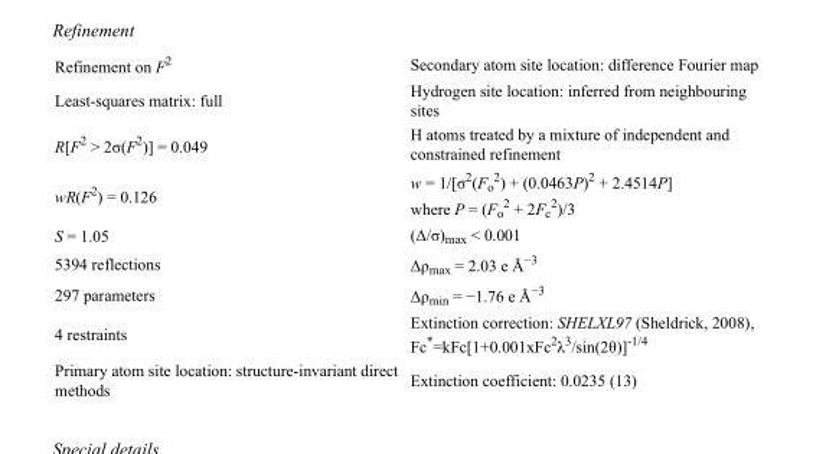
<table><tbody><tr><td>Refinement on F<sup>2</sup></td><td>Secondary atom site location: difference Fourier map</td></tr><tr><td>Least-squares matrix: full</td><td>Hydrogen site location: inferred from neighbouring sites</td></tr><tr><td>R[F<sup>2</sup> &gt; 2σ(F<sup>2</sup>)] = 0.049</td><td>H atoms treated by a mixture of independent and constrained refinement</td></tr><tr><td>wR(F<sup>2</sup>) = 0.126</td><td>w = 1/[σ<sup>2</sup>(F<sub>o</sub> <sup>2</sup>) + (0.0463P)<sup>2</sup> + 2.4514P] where P = (F<sub>o</sub> <sup>2</sup> + 2F<sub>c</sub> <sup>2</sup>)/3</td></tr><tr><td>S = 1.05</td><td>(Δ/σ)<sub>max</sub> &lt; 0.001</td></tr><tr><td>5394 reflections</td><td>Δρ<sub>max</sub> = 2.03 e Å<sup>−3</sup></td></tr><tr><td>297 parameters</td><td>Δρ<sub>min</sub> = −1.76 e Å<sup>−3</sup></td></tr><tr><td>4 restraints</td><td>Extinction correction: SHELXL97 (Sheldrick, 2008), Fc*=kFc[1+0.001xFc<sup>2</sup>λ<sup>3</sup>/sin(2θ)]<sup>-1/4</sup></td></tr><tr><td>Primary atom site location: structure-invariant direct methods</td><td>Extinction coefficient: 0.0235 (13)</td></tr></tbody></table>